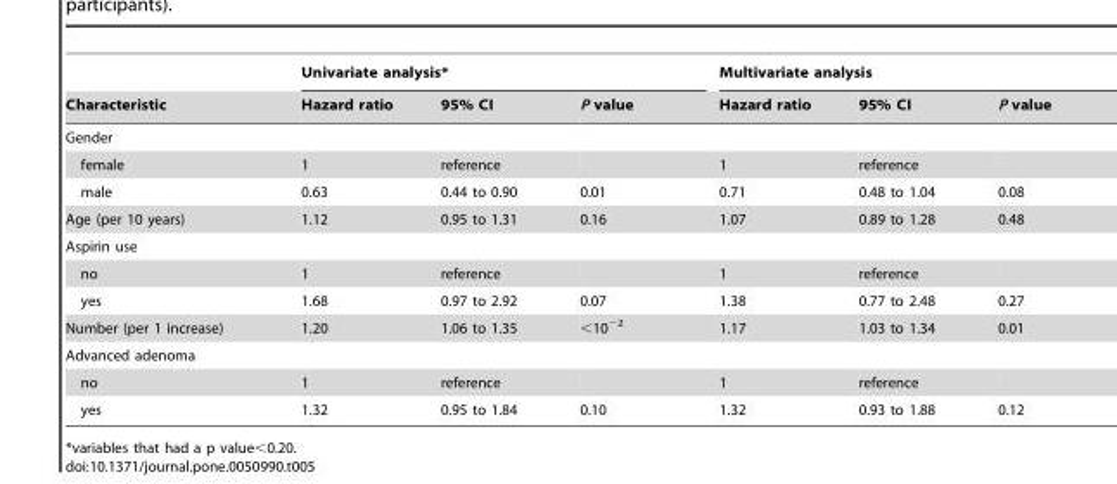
<table><thead><tr><td rowspan="2">Characteristic</td><td colspan="3">Univariate analysis*</td><td colspan="3">Multivariate analysis</td></tr><tr><td>Hazard ratio</td><td>95% CI</td><td>P value</td><td>Hazard ratio</td><td>95% CI</td><td>P value</td></tr></thead><tbody><tr><td colspan="7">Gender</td></tr><tr><td>female</td><td>1</td><td>reference</td><td></td><td>1</td><td>reference</td><td></td></tr><tr><td>male</td><td>0.63</td><td>0.44 to 0.90</td><td>0.01</td><td>0.71</td><td>0.48 to 1.04</td><td>0.08</td></tr><tr><td>Age (per 10 years)</td><td>1.12</td><td>0.95 to 1.31</td><td>0.16</td><td>1.07</td><td>0.89 to 1.28</td><td>0.48</td></tr><tr><td colspan="7">Aspirin use</td></tr><tr><td>no</td><td>1</td><td>reference</td><td></td><td>1</td><td>reference</td><td></td></tr><tr><td>yes</td><td>1.68</td><td>0.97 to 2.92</td><td>0.07</td><td>1.38</td><td>0.77 to 2.48</td><td>0.27</td></tr><tr><td>Number (per 1 increase)</td><td>1.20</td><td>1.06 to 1.35</td><td>&lt;10<sup>−2</sup></td><td>1.17</td><td>1.03 to 1.34</td><td>0.01</td></tr><tr><td colspan="7">Advanced adenoma</td></tr><tr><td>no</td><td>1</td><td>reference</td><td></td><td>1</td><td>reference</td><td></td></tr><tr><td>yes</td><td>1.32</td><td>0.95 to 1.84</td><td>0.10</td><td>1.32</td><td>0.93 to 1.88</td><td>0.12</td></tr></tbody></table>